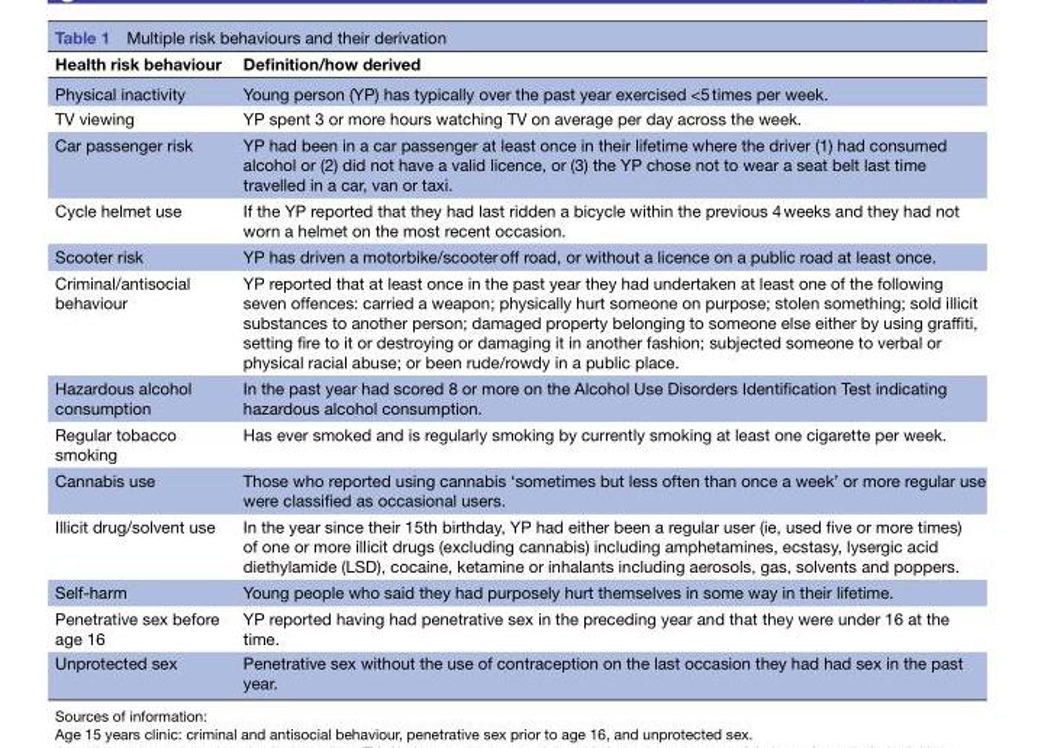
<table><thead><tr><td>Health risk behaviour</td><td>Definition/how derived</td></tr></thead><tbody><tr><td>Physical inactivity</td><td>Young person (YP) has typically over the past year exercised &lt;5 times per week.</td></tr><tr><td>TV viewing</td><td>YP spent 3 or more hours watching TV on average per day across the week.</td></tr><tr><td>Car passenger risk</td><td>YP had been in a car passenger at least once in their lifetime where the driver (1) had consumed alcohol or (2) did not have a valid licence, or (3) the YP chose not to wear a seat belt last time travelled in a car, van or taxi.</td></tr><tr><td>Cycle helmet use</td><td>If the YP reported that they had last ridden a bicycle within the previous 4 weeks and they had not worn a helmet on the most recent occasion.</td></tr><tr><td>Scooter risk</td><td>YP has driven a motorbike/scooter off road, or without a licence on a public road at least once.</td></tr><tr><td>Criminal/antisocial behaviour</td><td>YP reported that at least once in the past year they had undertaken at least one of the following seven offences: carried a weapon; physically hurt someone on purpose; stolen something; sold illicit substances to another person; damaged property belonging to someone else either by using graffiti, setting fire to it or destroying or damaging it in another fashion; subjected someone to verbal or physical racial abuse; or been rude/rowdy in a public place.</td></tr><tr><td>Hazardous alcohol consumption</td><td>In the past year had scored 8 or more on the Alcohol Use Disorders Identification Test indicating hazardous alcohol consumption.</td></tr><tr><td>Regular tobacco smoking</td><td>Has ever smoked and is regularly smoking by currently smoking at least one cigarette per week.</td></tr><tr><td>Cannabis use</td><td>Those who reported using cannabis ‘sometimes but less often than once a week’ or more regular use were classified as occasional users.</td></tr><tr><td>Illicit drug/solvent use</td><td>In the year since their 15th birthday, YP had either been a regular user (ie, used five or more times) of one or more illicit drugs (excluding cannabis) including amphetamines, ecstasy, lysergic acid diethylamide (LSD), cocaine, ketamine or inhalants including aerosols, gas, solvents and poppers.</td></tr><tr><td>Self-harm</td><td>Young people who said they had purposely hurt themselves in some way in their lifetime.</td></tr><tr><td>Penetrative sex before age 16</td><td>YP reported having had penetrative sex in the preceding year and that they were under 16 at the time.</td></tr><tr><td>Unprotected sex</td><td>Penetrative sex without the use of contraception on the last occasion they had had sex in the past year.</td></tr></tbody></table>